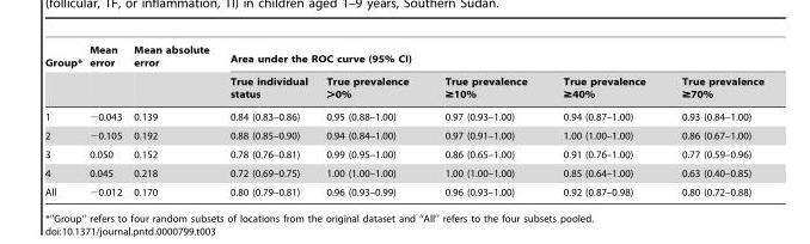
<table><thead><tr><td rowspan="2">Group*</td><td rowspan="2">Mean error</td><td rowspan="2">Mean absolute error</td><td colspan="5">Area under the ROC curve (95% CI)</td></tr><tr><td>True individual status</td><td>True prevalence &gt;0%</td><td>True prevalence ≥10%</td><td>True prevalence ≥40%</td><td>True prevalence ≥70%</td></tr></thead><tbody><tr><td>1</td><td>−0.043</td><td>0.139</td><td>0.84 (0.83–0.86)</td><td>0.95 (0.88–1.00)</td><td>0.97 (0.93–1.00)</td><td>0.94 (0.87–1.00)</td><td>0.93 (0.84–1.00)</td></tr><tr><td>2</td><td>−0.105</td><td>0.192</td><td>0.88 (0.85–0.90)</td><td>0.94 (0.84–1.00)</td><td>0.97 (0.91–1.00)</td><td>1.00 (1.00–1.00)</td><td>0.86 (0.67–1.00)</td></tr><tr><td>3</td><td>0.050</td><td>0.152</td><td>0.78 (0.76–0.81)</td><td>0.99 (0.95–1.00)</td><td>0.86 (0.65–1.00)</td><td>0.91 (0.76–1.00)</td><td>0.77 (0.59–0.96)</td></tr><tr><td>4</td><td>0.045</td><td>0.218</td><td>0.72 (0.69–0.75)</td><td>1.00 (1.00–1.00)</td><td>1.00 (1.00–1.00)</td><td>0.85 (0.64–1.00)</td><td>0.63 (0.40–0.85)</td></tr><tr><td>All</td><td>−0.012</td><td>0.170</td><td>0.80 (0.79–0.81)</td><td>0.96 (0.93–0.99)</td><td>0.96 (0.93–1.00)</td><td>0.92 (0.87–0.98)</td><td>0.80 (0.72–0.88)</td></tr></tbody></table>